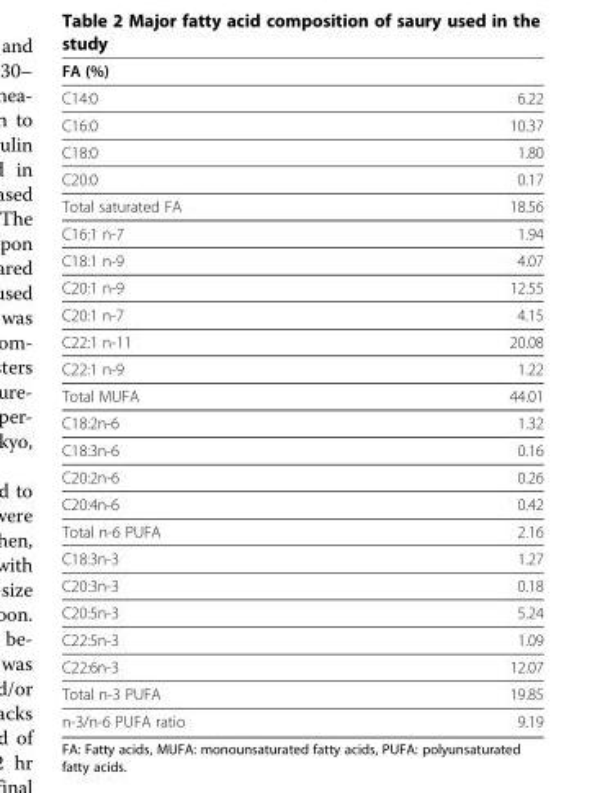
<table><thead><tr><td colspan="2">FA (%)</td></tr><tr><td>C14:0</td><td>6.22</td></tr></thead><tbody><tr><td>C16:0</td><td>10.37</td></tr><tr><td>C18:0</td><td>1.80</td></tr><tr><td>C20:0</td><td>0.17</td></tr><tr><td>Total saturated FA</td><td>18.56</td></tr><tr><td>C16:1 n-7</td><td>1.94</td></tr><tr><td>C18:1 n-9</td><td>4.07</td></tr><tr><td>C20:1 n-9</td><td>12.55</td></tr><tr><td>C20:1 n-7</td><td>4.15</td></tr><tr><td>C22:1 n-11</td><td>20.08</td></tr><tr><td>C22:1 n-9</td><td>1.22</td></tr><tr><td>Total MUFA</td><td>44.01</td></tr><tr><td>C18:2n-6</td><td>1.32</td></tr><tr><td>C18:3n-6</td><td>0.16</td></tr><tr><td>C20:2n-6</td><td>0.26</td></tr><tr><td>C20:4n-6</td><td>0.42</td></tr><tr><td>Total n-6 PUFA</td><td>2.16</td></tr><tr><td>C18:3n-3</td><td>1.27</td></tr><tr><td>C20:3n-3</td><td>0.18</td></tr><tr><td>C20:5n-3</td><td>5.24</td></tr><tr><td>C22:5n-3</td><td>1.09</td></tr><tr><td>C22:6n-3</td><td>12.07</td></tr><tr><td>Total n-3 PUFA</td><td>19.85</td></tr><tr><td>n-3/n-6 PUFA ratio</td><td>9.19</td></tr></tbody></table>